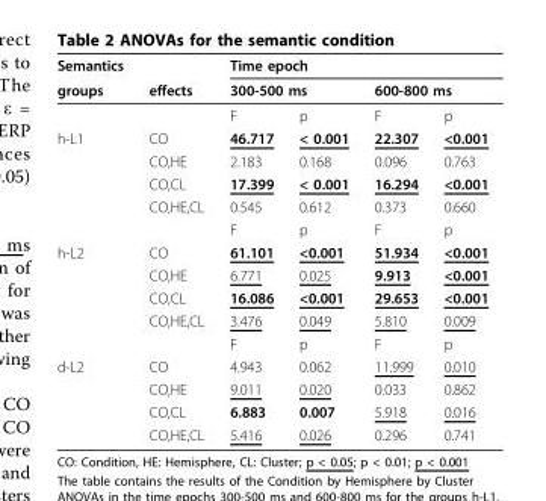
<table><thead><tr><td rowspan="2">Semantics groups</td><td rowspan="2">effects</td><td colspan="4">Time epoch</td></tr><tr><td colspan="2">300-500 ms</td><td colspan="2">600-800 ms</td></tr><tr><td colspan="2"></td><td>F</td><td>p</td><td>F</td><td>p</td></tr></thead><tbody><tr><td rowspan="4">h-L1</td><td>CO</td><td>46.717</td><td>&lt; 0.001</td><td>22.307</td><td>&lt;0.001</td></tr><tr><td>CO,HE</td><td>2.183</td><td>0.168</td><td>0.096</td><td>0.763</td></tr><tr><td>CO,CL</td><td>17.399</td><td>&lt; 0.001</td><td>16.294</td><td>&lt;0.001</td></tr><tr><td>CO,HE,CL</td><td>0.545</td><td>0.612</td><td>0.373</td><td>0.660</td></tr><tr><td colspan="2"></td><td>F</td><td>p</td><td>F</td><td>p</td></tr><tr><td rowspan="4">h-L2</td><td>CO</td><td>61.101</td><td>&lt;0.001</td><td>51.934</td><td>&lt;0.001</td></tr><tr><td>CO,HE</td><td>6.771</td><td>0.025</td><td>9.913</td><td>&lt;0.001</td></tr><tr><td>CO,CL</td><td>16.086</td><td>&lt;0.001</td><td>29.653</td><td>&lt;0.001</td></tr><tr><td>CO,HE,CL</td><td>3.476</td><td>0.049</td><td>5.810</td><td>0.009</td></tr><tr><td colspan="2"></td><td>F</td><td>p</td><td>F</td><td>p</td></tr><tr><td rowspan="4">d-L2</td><td>CO</td><td>4.943</td><td>0.062</td><td>11.999</td><td>0.010</td></tr><tr><td>CO,HE</td><td>9.011</td><td>0.020</td><td>0.033</td><td>0.862</td></tr><tr><td>CO,CL</td><td>6.883</td><td>0.007</td><td>5.918</td><td>0.016</td></tr><tr><td>CO,HE,CL</td><td>5.416</td><td>0.026</td><td>0.296</td><td>0.741</td></tr></tbody></table>